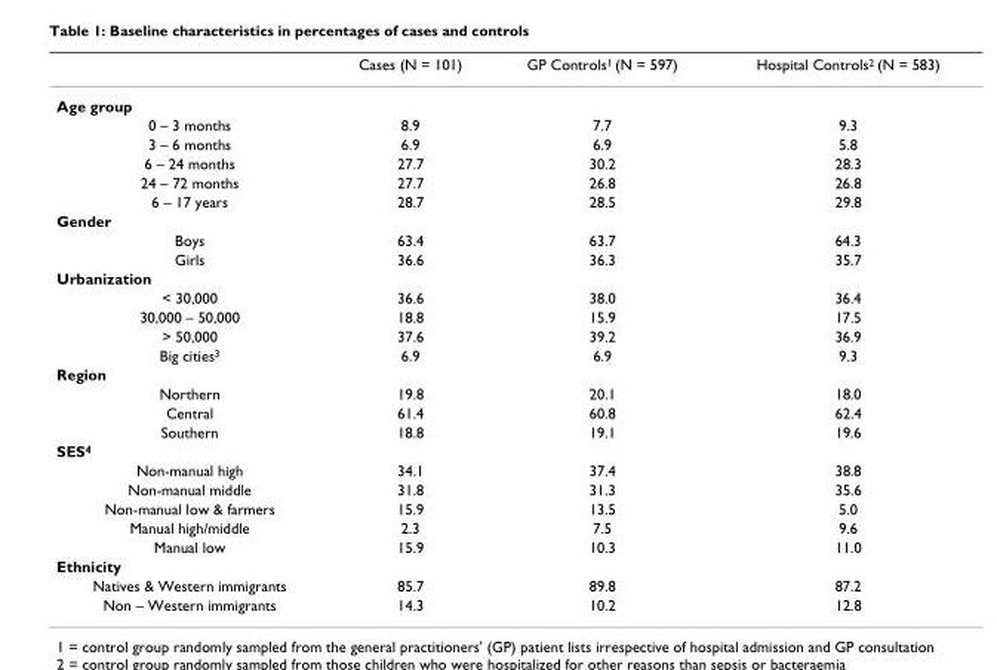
<table><thead><tr><td></td><td>Cases (N = 101)</td><td>GP Controls<sup>1</sup> (N = 597)</td><td>Hospital Controls<sup>2</sup> (N = 583)</td></tr></thead><tbody><tr><td colspan="4">Age group</td></tr><tr><td>0 – 3 months</td><td>8.9</td><td>7.7</td><td>9.3</td></tr><tr><td>3 – 6 months</td><td>6.9</td><td>6.9</td><td>5.8</td></tr><tr><td>6 – 24 months</td><td>27.7</td><td>30.2</td><td>28.3</td></tr><tr><td>24 – 72 months</td><td>27.7</td><td>26.8</td><td>26.8</td></tr><tr><td>6 – 17 years</td><td>28.7</td><td>28.5</td><td>29.8</td></tr><tr><td colspan="4">Gender</td></tr><tr><td>Boys</td><td>63.4</td><td>63.7</td><td>64.3</td></tr><tr><td>Girls</td><td>36.6</td><td>36.3</td><td>35.7</td></tr><tr><td colspan="4">Urbanization</td></tr><tr><td>&lt; 30,000</td><td>36.6</td><td>38.0</td><td>36.4</td></tr><tr><td>30,000 – 50,000</td><td>18.8</td><td>15.9</td><td>17.5</td></tr><tr><td>&gt; 50,000</td><td>37.6</td><td>39.2</td><td>36.9</td></tr><tr><td>Big cities<sup>3</sup></td><td>6.9</td><td>6.9</td><td>9.3</td></tr><tr><td colspan="4">Region</td></tr><tr><td>Northern</td><td>19.8</td><td>20.1</td><td>18.0</td></tr><tr><td>Central</td><td>61.4</td><td>60.8</td><td>62.4</td></tr><tr><td>Southern</td><td>18.8</td><td>19.1</td><td>19.6</td></tr><tr><td colspan="4">SES<sup>4</sup></td></tr><tr><td>Non-manual high</td><td>34.1</td><td>37.4</td><td>38.8</td></tr><tr><td>Non-manual middle</td><td>31.8</td><td>31.3</td><td>35.6</td></tr><tr><td>Non-manual low &amp; farmers</td><td>15.9</td><td>13.5</td><td>5.0</td></tr><tr><td>Manual high/middle</td><td>2.3</td><td>7.5</td><td>9.6</td></tr><tr><td>Manual low</td><td>15.9</td><td>10.3</td><td>11.0</td></tr><tr><td colspan="4">Ethnicity</td></tr><tr><td>Natives &amp; Western immigrants</td><td>85.7</td><td>89.8</td><td>87.2</td></tr><tr><td>Non – Western immigrants</td><td>14.3</td><td>10.2</td><td>12.8</td></tr></tbody></table>